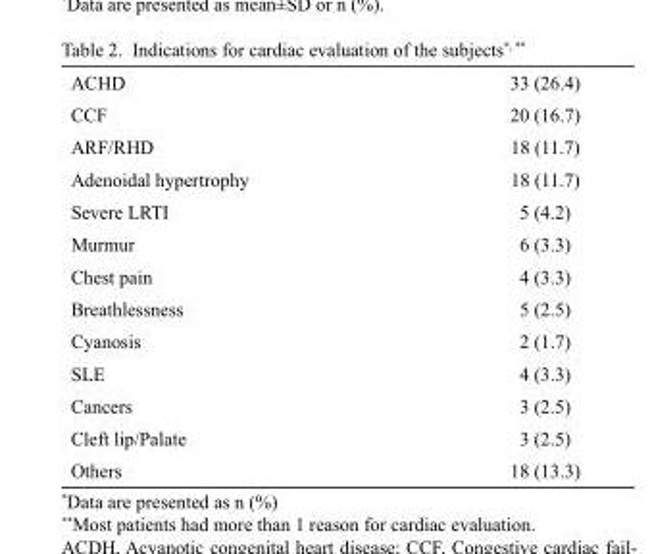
<table><tbody><tr><td>ACHD</td><td>33 (26.4)</td></tr><tr><td>CCF</td><td>20 (16.7)</td></tr><tr><td>ARF/RHD</td><td>18 (11.7)</td></tr><tr><td>Adenoidal hypertrophy</td><td>18 (11.7)</td></tr><tr><td>Severe LRTI</td><td>5 (4.2)</td></tr><tr><td>Murmur</td><td>6 (3.3)</td></tr><tr><td>Chest pain</td><td>4 (3.3)</td></tr><tr><td>Breathlessness</td><td>5 (2.5)</td></tr><tr><td>Cyanosis</td><td>2 (1.7)</td></tr><tr><td>SLE</td><td>4 (3.3)</td></tr><tr><td>Cancers</td><td>3 (2.5)</td></tr><tr><td>Cleft lip/Palate</td><td>3 (2.5)</td></tr><tr><td>Others</td><td>18 (13.3)</td></tr></tbody></table>